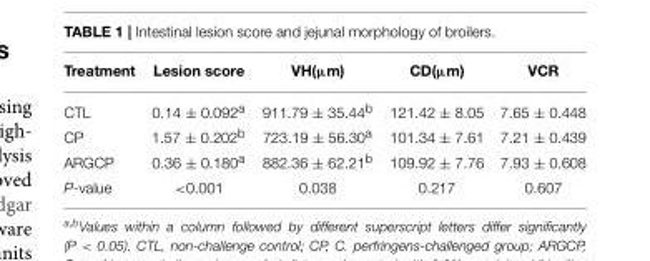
<table><thead><tr><td>Treatment</td><td>Lesion score</td><td>VH(µm)</td><td>CD(µm)</td><td>VCR</td></tr></thead><tbody><tr><td>CTL</td><td>0.14 ± 0.092<sup>a</sup></td><td>911.79 ± 35.44<sup>b</sup></td><td>121.42 ± 8.05</td><td>7.65 ± 0.448</td></tr><tr><td>CP</td><td>1.57 ± 0.202<sup>b</sup></td><td>723.19 ± 56.30<sup>a</sup></td><td>101.34 ± 7.61</td><td>7.21 ± 0.439</td></tr><tr><td>ARGCP</td><td>0.36 ± 0.180<sup>a</sup></td><td>882.36 ± 62.21<sup>b</sup></td><td>109.92 ± 7.76</td><td>7.93 ± 0.608</td></tr><tr><td>P-value</td><td>&lt;0.001</td><td>0.038</td><td>0.217</td><td>0.607</td></tr></tbody></table>